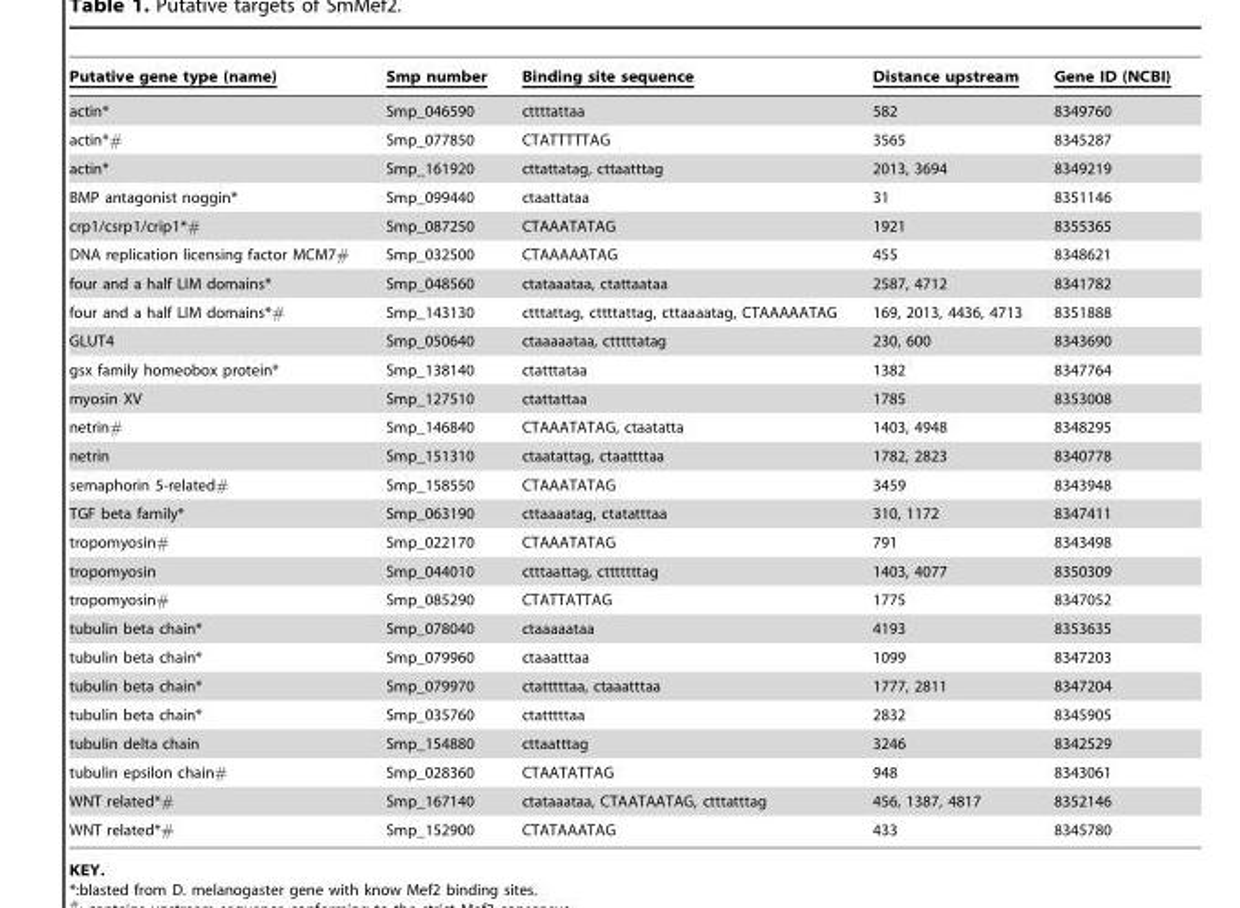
<table><thead><tr><td>Putative gene type (name)</td><td>Smp number</td><td>Binding site sequence</td><td>Distance upstream</td><td>Gene ID (NCBI)</td></tr></thead><tbody><tr><td>actin*</td><td>Smp_046590</td><td>cttttattaa</td><td>582</td><td>8349760</td></tr><tr><td>actin*#</td><td>Smp_077850</td><td>CTATTTTTAG</td><td>3565</td><td>8345287</td></tr><tr><td>actin*</td><td>Smp_161920</td><td>cttattatag, cttaatttag</td><td>2013, 3694</td><td>8349219</td></tr><tr><td>BMP antagonist noggin*</td><td>Smp_099440</td><td>ctaattataa</td><td>31</td><td>8351146</td></tr><tr><td>crp1/csrp1/crip1*#</td><td>Smp_087250</td><td>CTAAATATAG</td><td>1921</td><td>8355365</td></tr><tr><td>DNA replication licensing factor MCM7#</td><td>Smp_032500</td><td>CTAAAAATAG</td><td>455</td><td>8348621</td></tr><tr><td>four and a half LIM domains*</td><td>Smp_048560</td><td>ctataaataa, ctattaataa</td><td>2587, 4712</td><td>8341782</td></tr><tr><td>four and a half LIM domains*#</td><td>Smp_143130</td><td>ctttattag, cttttattag, cttaaaatag, CTAAAAATAG</td><td>169, 2013, 4436, 4713</td><td>8351888</td></tr><tr><td>GLUT4</td><td>Smp_050640</td><td>ctaaaaataa, ctttttatag</td><td>230, 600</td><td>8343690</td></tr><tr><td>gsx family homeobox protein*</td><td>Smp_138140</td><td>ctatttataa</td><td>1382</td><td>8347764</td></tr><tr><td>myosin XV</td><td>Smp_127510</td><td>ctattattaa</td><td>1785</td><td>8353008</td></tr><tr><td>netrin#</td><td>Smp_146840</td><td>CTAAATATAG, ctaatatta</td><td>1403, 4948</td><td>8348295</td></tr><tr><td>netrin</td><td>Smp_151310</td><td>ctaatattag, ctaattttaa</td><td>1782, 2823</td><td>8340778</td></tr><tr><td>semaphorin 5-related#</td><td>Smp_158550</td><td>CTAAATATAG</td><td>3459</td><td>8343948</td></tr><tr><td>TGF beta family*</td><td>Smp_063190</td><td>cttaaaatag, ctatatttaa</td><td>310, 1172</td><td>8347411</td></tr><tr><td>tropomyosin#</td><td>Smp_022170</td><td>CTAAATATAG</td><td>791</td><td>8343498</td></tr><tr><td>tropomyosin</td><td>Smp_044010</td><td>ctttaattag, ctttttttag</td><td>1403, 4077</td><td>8350309</td></tr><tr><td>tropomyosin#</td><td>Smp_085290</td><td>CTATTATTAG</td><td>1775</td><td>8347052</td></tr><tr><td>tubulin beta chain*</td><td>Smp_078040</td><td>ctaaaaataa</td><td>4193</td><td>8353635</td></tr><tr><td>tubulin beta chain*</td><td>Smp_079960</td><td>ctaaatttaa</td><td>1099</td><td>8347203</td></tr><tr><td>tubulin beta chain*</td><td>Smp_079970</td><td>ctatttttaa, ctaaatttaa</td><td>1777, 2811</td><td>8347204</td></tr><tr><td>tubulin beta chain*</td><td>Smp_035760</td><td>ctatttttaa</td><td>2832</td><td>8345905</td></tr><tr><td>tubulin delta chain</td><td>Smp_154880</td><td>cttaatttag</td><td>3246</td><td>8342529</td></tr><tr><td>tubulin epsilon chain#</td><td>Smp_028360</td><td>CTAATATTAG</td><td>948</td><td>8343061</td></tr><tr><td>WNT related*#</td><td>Smp_167140</td><td>ctataaataa, CTAATAATAG, ctttatttag</td><td>456, 1387, 4817</td><td>8352146</td></tr><tr><td>WNT related*#</td><td>Smp_152900</td><td>CTATAAATAG</td><td>433</td><td>8345780</td></tr></tbody></table>